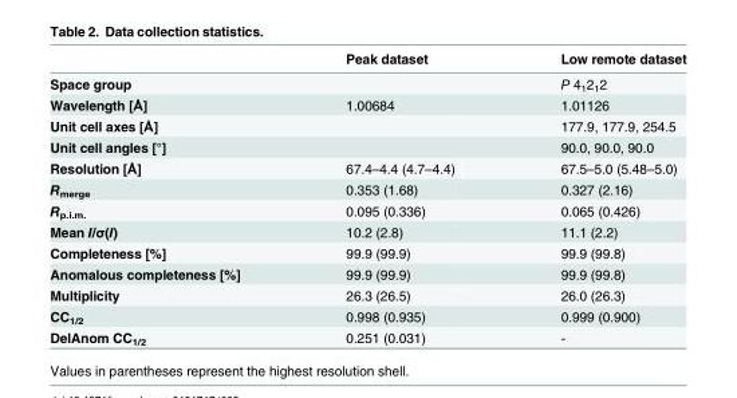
<table><thead><tr><td></td><td>Peak dataset</td><td>Low remote dataset</td></tr></thead><tbody><tr><td>Space group</td><td></td><td>P 4<sub>1</sub>2<sub>1</sub>2</td></tr><tr><td>Wavelength [Å]</td><td>1.00684</td><td>1.01126</td></tr><tr><td>Unit cell axes [Å]</td><td></td><td>177.9, 177.9, 254.5</td></tr><tr><td>Unit cell angles [°]</td><td></td><td>90.0, 90.0, 90.0</td></tr><tr><td>Resolution [Å]</td><td>67.4–4.4 (4.7–4.4)</td><td>67.5–5.0 (5.48–5.0)</td></tr><tr><td>R<sub>merge</sub></td><td>0.353 (1.68)</td><td>0.327 (2.16)</td></tr><tr><td>R<sub>p.i.m.</sub></td><td>0.095 (0.336)</td><td>0.065 (0.426)</td></tr><tr><td>Mean I/σ(I)</td><td>10.2 (2.8)</td><td>11.1 (2.2)</td></tr><tr><td>Completeness [%]</td><td>99.9 (99.9)</td><td>99.9 (99.8)</td></tr><tr><td>Anomalous completeness [%]</td><td>99.9 (99.9)</td><td>99.9 (99.8)</td></tr><tr><td>Multiplicity</td><td>26.3 (26.5)</td><td>26.0 (26.3)</td></tr><tr><td>CC<sub>1/2</sub></td><td>0.998 (0.935)</td><td>0.999 (0.900)</td></tr><tr><td>DelAnom CC<sub>1/2</sub></td><td>0.251 (0.031)</td><td>-</td></tr></tbody></table>